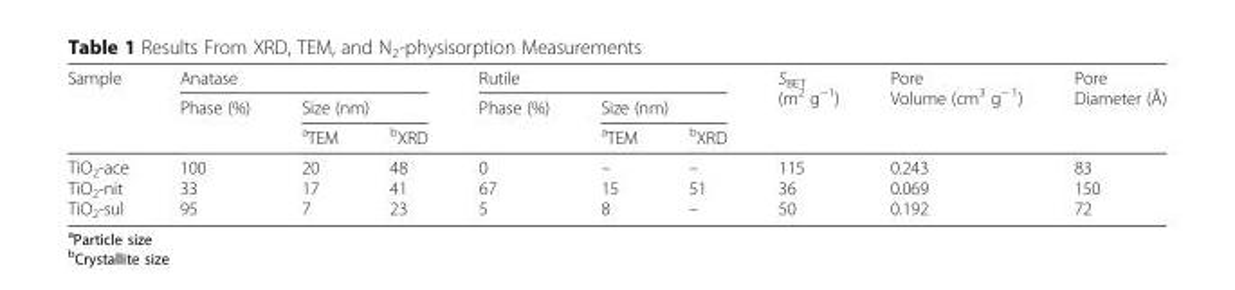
<table><thead><tr><td rowspan="3">Sample</td><td colspan="3">Anatase</td><td colspan="3">Rutile</td><td rowspan="3">S<sub>BET</sub> (m<sup>2</sup> g<sup>−1</sup>)</td><td rowspan="3">Pore Volume (cm<sup>3</sup> g<sup>− 1</sup>)</td><td rowspan="3">Pore Diameter (Å)</td></tr><tr><td rowspan="2">Phase (%)</td><td colspan="2">Size (nm)</td><td rowspan="2">Phase (%)</td><td colspan="2">Size (nm)</td></tr><tr><td><sup>a</sup>TEM</td><td><sup>b</sup>XRD</td><td><sup>a</sup>TEM</td><td><sup>b</sup>XRD</td></tr></thead><tbody><tr><td>TiO<sub>2</sub>-ace TiO<sub>2</sub>-nit TiO<sub>2</sub>-sul</td><td>100 33 95</td><td>20 17 7</td><td>48 41 23</td><td>0 67 5</td><td>– 15 8</td><td>– 51 –</td><td>115 36 50</td><td>0.243 0.069 0.192</td><td>83 150 72</td></tr></tbody></table>